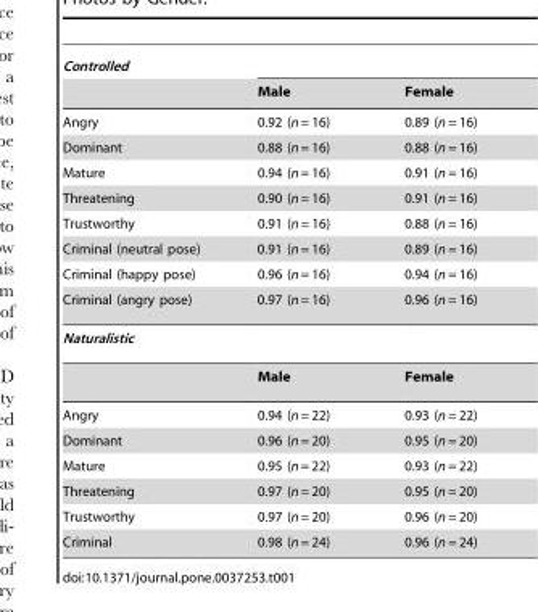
<table><thead><tr><td rowspan="2">Controlled</td><td rowspan="2">Male</td><td rowspan="2">Female</td></tr><tr></tr></thead><tbody><tr><td>Angry</td><td>0.92 (n = 16)</td><td>0.89 (n = 16)</td></tr><tr><td>Dominant</td><td>0.88 (n = 16)</td><td>0.88 (n = 16)</td></tr><tr><td>Mature</td><td>0.94 (n = 16)</td><td>0.91 (n = 16)</td></tr><tr><td>Threatening</td><td>0.90 (n = 16)</td><td>0.91 (n = 16)</td></tr><tr><td>Trustworthy</td><td>0.91 (n = 16)</td><td>0.88 (n = 16)</td></tr><tr><td>Criminal (neutral pose)</td><td>0.91 (n = 16)</td><td>0.89 (n = 16)</td></tr><tr><td>Criminal (happy pose)</td><td>0.96 (n = 16)</td><td>0.94 (n = 16)</td></tr><tr><td>Criminal (angry pose)</td><td>0.97 (n = 16)</td><td>0.96 (n = 16)</td></tr><tr><td colspan="3">Naturalistic</td></tr><tr><td></td><td>Male</td><td>Female</td></tr><tr><td>Angry</td><td>0.94 (n = 22)</td><td>0.93 (n = 22)</td></tr><tr><td>Dominant</td><td>0.96 (n = 20)</td><td>0.95 (n = 20)</td></tr><tr><td>Mature</td><td>0.95 (n = 22)</td><td>0.93 (n = 22)</td></tr><tr><td>Threatening</td><td>0.97 (n = 20)</td><td>0.95 (n = 20)</td></tr><tr><td>Trustworthy</td><td>0.97 (n = 20)</td><td>0.96 (n = 20)</td></tr><tr><td>Criminal</td><td>0.98 (n = 24)</td><td>0.96 (n = 24)</td></tr></tbody></table>